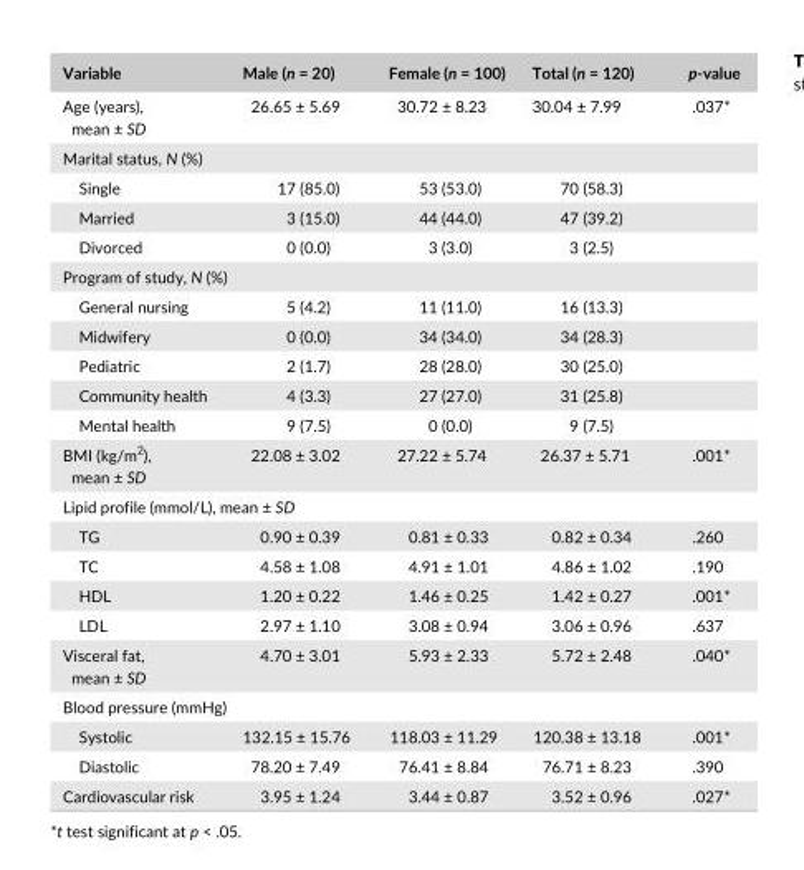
<table><thead><tr><td>Variable</td><td>Male (n = 20)</td><td>Female (n = 100)</td><td>Total (n = 120)</td><td>p- value</td></tr></thead><tbody><tr><td>Age (years), mean ± SD</td><td>26.65 ± 5.69</td><td>30.72 ± 8.23</td><td>30.04 ± 7.99</td><td>.037*</td></tr><tr><td colspan="5">Marital status, N (%)</td></tr><tr><td>Single</td><td>17 (85.0)</td><td>53 (53.0)</td><td>70 (58.3)</td><td></td></tr><tr><td>Married</td><td>3 (15.0)</td><td>44 (44.0)</td><td>47 (39.2)</td><td></td></tr><tr><td>Divorced</td><td>0 (0.0)</td><td>3 (3.0)</td><td>3 (2.5)</td><td></td></tr><tr><td colspan="5">Program of study, N (%)</td></tr><tr><td>General nursing</td><td>5 (4.2)</td><td>11 (11.0)</td><td>16 (13.3)</td><td></td></tr><tr><td>Midwifery</td><td>0 (0.0)</td><td>34 (34.0)</td><td>34 (28.3)</td><td></td></tr><tr><td>Pediatric</td><td>2 (1.7)</td><td>28 (28.0)</td><td>30 (25.0)</td><td></td></tr><tr><td>Community health</td><td>4 (3.3)</td><td>27 (27.0)</td><td>31 (25.8)</td><td></td></tr><tr><td>Mental health</td><td>9 (7.5)</td><td>0 (0.0)</td><td>9 (7.5)</td><td></td></tr><tr><td>BMI (kg/m<sup>2</sup>), mean ± SD</td><td>22.08 ± 3.02</td><td>27.22 ± 5.74</td><td>26.37 ± 5.71</td><td>.001*</td></tr><tr><td colspan="5">Lipid profile (mmol/L), mean ± SD</td></tr><tr><td>TG</td><td>0.90 ± 0.39</td><td>0.81 ± 0.33</td><td>0.82 ± 0.34</td><td>.260</td></tr><tr><td>TC</td><td>4.58 ± 1.08</td><td>4.91 ± 1.01</td><td>4.86 ± 1.02</td><td>.190</td></tr><tr><td>HDL</td><td>1.20 ± 0.22</td><td>1.46 ± 0.25</td><td>1.42 ± 0.27</td><td>.001*</td></tr><tr><td>LDL</td><td>2.97 ± 1.10</td><td>3.08 ± 0.94</td><td>3.06 ± 0.96</td><td>.637</td></tr><tr><td>Visceral fat, mean ± SD</td><td>4.70 ± 3.01</td><td>5.93 ± 2.33</td><td>5.72 ± 2.48</td><td>.040*</td></tr><tr><td colspan="5">Blood pressure (mmHg)</td></tr><tr><td>Systolic</td><td>132.15 ± 15.76</td><td>118.03 ± 11.29</td><td>120.38 ± 13.18</td><td>.001*</td></tr><tr><td>Diastolic</td><td>78.20 ± 7.49</td><td>76.41 ± 8.84</td><td>76.71 ± 8.23</td><td>.390</td></tr><tr><td>Cardiovascular risk</td><td>3.95 ± 1.24</td><td>3.44 ± 0.87</td><td>3.52 ± 0.96</td><td>.027*</td></tr></tbody></table>